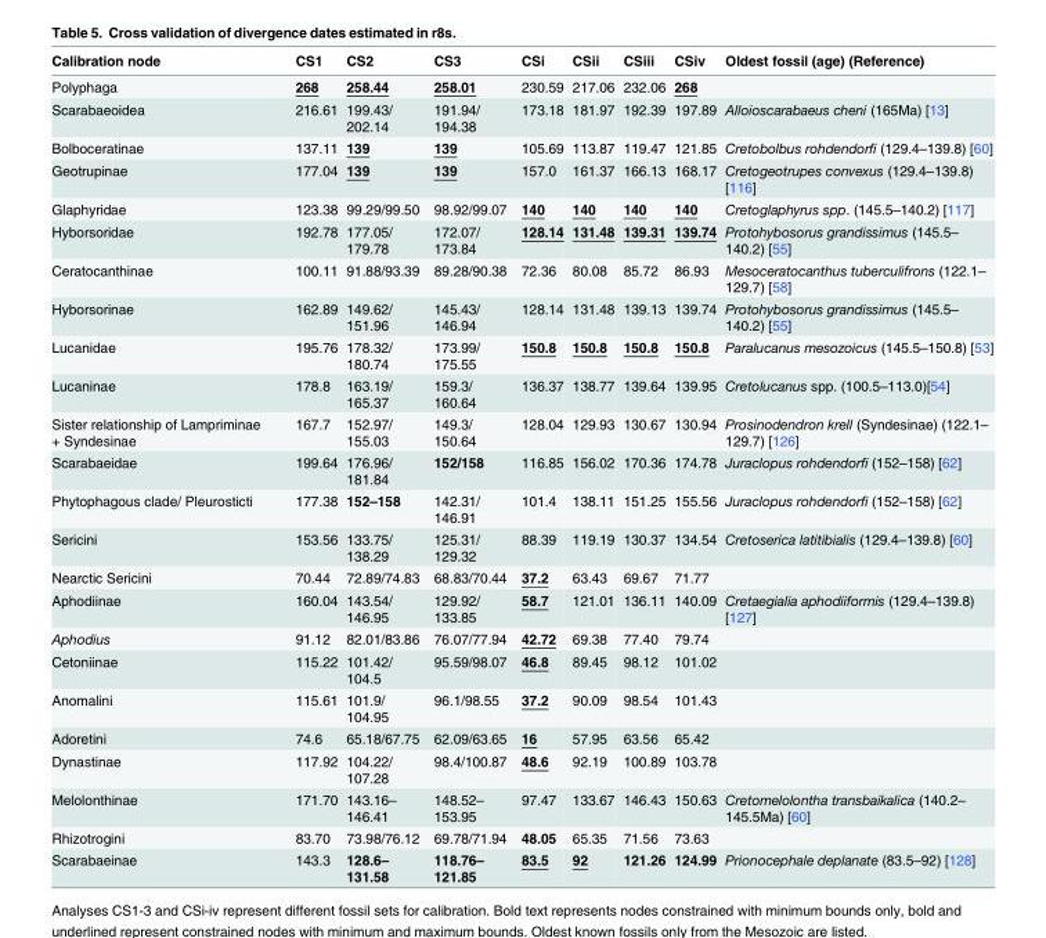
<table><thead><tr><td>Calibration node</td><td>CS1</td><td>CS2</td><td>CS3</td><td>CSi</td><td>CSii</td><td>CSiii</td><td>CSiv</td><td>Oldest fossil (age) (Reference)</td></tr></thead><tbody><tr><td>Polyphaga</td><td>268</td><td>258.44</td><td>258.01</td><td>230.59</td><td>217.06</td><td>232.06</td><td>268</td><td></td></tr><tr><td>Scarabaeoidea</td><td>216.61</td><td>199.43/ 202.14</td><td>191.94/ 194.38</td><td>173.18</td><td>181.97</td><td>192.39</td><td>197.89</td><td>Alloioscarabaeus cheni (165Ma) [13]</td></tr><tr><td>Bolboceratinae</td><td>137.11</td><td>139</td><td>139</td><td>105.69</td><td>113.87</td><td>119.47</td><td>121.85</td><td>Cretobolbus rohdendorfi (129.4–139.8) [60]</td></tr><tr><td>Geotrupinae</td><td>177.04</td><td>139</td><td>139</td><td>157.0</td><td>161.37</td><td>166.13</td><td>168.17</td><td>Cretogeotrupes convexus (129.4–139.8) [116]</td></tr><tr><td>Glaphyridae</td><td>123.38</td><td>99.29/99.50</td><td>98.92/99.07</td><td>140</td><td>140</td><td>140</td><td>140</td><td>Cretoglaphyrus spp. (145.5–140.2) [117]</td></tr><tr><td>Hyborsoridae</td><td>192.78</td><td>177.05/ 179.78</td><td>172.07/ 173.84</td><td>128.14</td><td>131.48</td><td>139.31</td><td>139.74</td><td>Protohybosorus grandissimus (145.5– 140.2) [55]</td></tr><tr><td>Ceratocanthinae</td><td>100.11</td><td>91.88/93.39</td><td>89.28/90.38</td><td>72.36</td><td>80.08</td><td>85.72</td><td>86.93</td><td>Mesoceratocanthus tuberculifrons (122.1– 129.7) [58]</td></tr><tr><td>Hyborsorinae</td><td>162.89</td><td>149.62/ 151.96</td><td>145.43/ 146.94</td><td>128.14</td><td>131.48</td><td>139.13</td><td>139.74</td><td>Protohybosorus grandissimus (145.5– 140.2) [55]</td></tr><tr><td>Lucanidae</td><td>195.76</td><td>178.32/ 180.74</td><td>173.99/ 175.55</td><td>150.8</td><td>150.8</td><td>150.8</td><td>150.8</td><td>Paralucanus mesozoicus (145.5–150.8) [53]</td></tr><tr><td>Lucaninae</td><td>178.8</td><td>163.19/ 165.37</td><td>159.3/ 160.64</td><td>136.37</td><td>138.77</td><td>139.64</td><td>139.95</td><td>Cretolucanus spp. (100.5–113.0)[54]</td></tr><tr><td>Sister relationship of Lampriminae + Syndesinae</td><td>167.7</td><td>152.97/ 155.03</td><td>149.3/ 150.64</td><td>128.04</td><td>129.93</td><td>130.67</td><td>130.94</td><td>Prosinodendron krell (Syndesinae) (122.1– 129.7) [126]</td></tr><tr><td>Scarabaeidae</td><td>199.64</td><td>176.96/ 181.84</td><td>152/158</td><td>116.85</td><td>156.02</td><td>170.36</td><td>174.78</td><td>Juraclopus rohdendorfi (152–158) [62]</td></tr><tr><td>Phytophagous clade/ Pleurosticti</td><td>177.38</td><td>152–158</td><td>142.31/ 146.91</td><td>101.4</td><td>138.11</td><td>151.25</td><td>155.56</td><td>Juraclopus rohdendorfi (152–158) [62]</td></tr><tr><td>Sericini</td><td>153.56</td><td>133.75/ 138.29</td><td>125.31/ 129.32</td><td>88.39</td><td>119.19</td><td>130.37</td><td>134.54</td><td>Cretoserica latitibialis (129.4–139.8) [60]</td></tr><tr><td>Nearctic Sericini</td><td>70.44</td><td>72.89/74.83</td><td>68.83/70.44</td><td>37.2</td><td>63.43</td><td>69.67</td><td>71.77</td><td></td></tr><tr><td>Aphodiinae</td><td>160.04</td><td>143.54/ 146.95</td><td>129.92/ 133.85</td><td>58.7</td><td>121.01</td><td>136.11</td><td>140.09</td><td>Cretaegialia aphodiiformis (129.4–139.8) [127]</td></tr><tr><td>Aphodius</td><td>91.12</td><td>82.01/83.86</td><td>76.07/77.94</td><td>42.72</td><td>69.38</td><td>77.40</td><td>79.74</td><td></td></tr><tr><td>Cetoniinae</td><td>115.22</td><td>101.42/ 104.5</td><td>95.59/98.07</td><td>46.8</td><td>89.45</td><td>98.12</td><td>101.02</td><td></td></tr><tr><td>Anomalini</td><td>115.61</td><td>101.9/ 104.95</td><td>96.1/98.55</td><td>37.2</td><td>90.09</td><td>98.54</td><td>101.43</td><td></td></tr><tr><td>Adoretini</td><td>74.6</td><td>65.18/67.75</td><td>62.09/63.65</td><td>16</td><td>57.95</td><td>63.56</td><td>65.42</td><td></td></tr><tr><td>Dynastinae</td><td>117.92</td><td>104.22/ 107.28</td><td>98.4/100.87</td><td>48.6</td><td>92.19</td><td>100.89</td><td>103.78</td><td></td></tr><tr><td>Melolonthinae</td><td>171.70</td><td>143.16– 146.41</td><td>148.52– 153.95</td><td>97.47</td><td>133.67</td><td>146.43</td><td>150.63</td><td>Cretomelolontha transbaikalica (140.2– 145.5Ma) [60]</td></tr><tr><td>Rhizotrogini</td><td>83.70</td><td>73.98/76.12</td><td>69.78/71.94</td><td>48.05</td><td>65.35</td><td>71.56</td><td>73.63</td><td></td></tr><tr><td>Scarabaeinae</td><td>143.3</td><td>128.6– 131.58</td><td>118.76– 121.85</td><td>83.5</td><td>92</td><td>121.26</td><td>124.99</td><td>Prionocephale deplanate (83.5–92) [128]</td></tr></tbody></table>